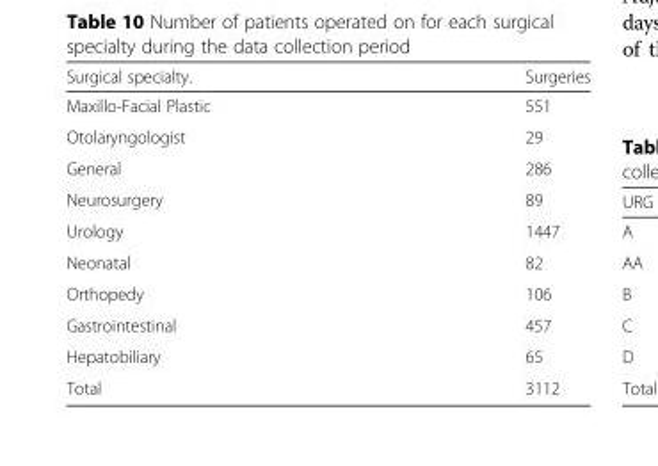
<table><thead><tr><td>Surgical specialty.</td><td>Surgeries</td></tr></thead><tbody><tr><td>Maxillo-Facial Plastic</td><td>551</td></tr><tr><td>Otolaryngologist</td><td>29</td></tr><tr><td>General</td><td>286</td></tr><tr><td>Neurosurgery</td><td>89</td></tr><tr><td>Urology</td><td>1447</td></tr><tr><td>Neonatal</td><td>82</td></tr><tr><td>Orthopedy</td><td>106</td></tr><tr><td>Gastrointestinal</td><td>457</td></tr><tr><td>Hepatobiliary</td><td>65</td></tr><tr><td>Total</td><td>3112</td></tr></tbody></table>